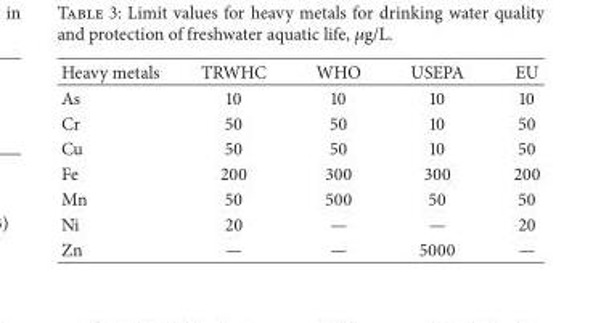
<table><thead><tr><td>Heavy metals</td><td>TRWHC</td><td>WHO</td><td>USEPA</td><td>EU</td></tr></thead><tbody><tr><td>As</td><td>10</td><td>10</td><td>10</td><td>10</td></tr><tr><td>Cr</td><td>50</td><td>50</td><td>10</td><td>50</td></tr><tr><td>Cu</td><td>50</td><td>50</td><td>10</td><td>50</td></tr><tr><td>Fe</td><td>200</td><td>300</td><td>300</td><td>200</td></tr><tr><td>Mn</td><td>50</td><td>500</td><td>50</td><td>50</td></tr><tr><td>Ni</td><td>20</td><td>—</td><td>—</td><td>20</td></tr><tr><td>Zn</td><td>—</td><td>—</td><td>5000</td><td>—</td></tr></tbody></table>